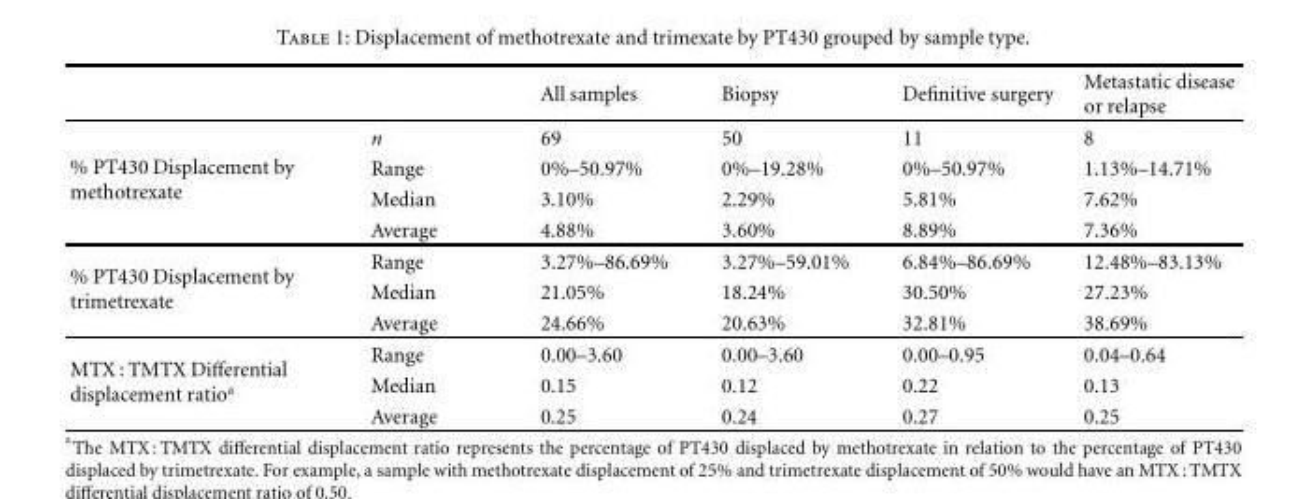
<table><thead><tr><td></td><td></td><td>All samples</td><td>Biopsy</td><td>Definitive surgery</td><td>Metastatic disease or relapse</td></tr></thead><tbody><tr><td rowspan="4">% PT430 Displacement by methotrexate</td><td>n</td><td>69</td><td>50</td><td>11</td><td>8</td></tr><tr><td>Range</td><td>0%–50.97%</td><td>0%–19.28%</td><td>0%–50.97%</td><td>1.13%–14.71%</td></tr><tr><td>Median</td><td>3.10%</td><td>2.29%</td><td>5.81%</td><td>7.62%</td></tr><tr><td>Average</td><td>4.88%</td><td>3.60%</td><td>8.89%</td><td>7.36%</td></tr><tr><td rowspan="3">% PT430 Displacement by trimetrexate</td><td>Range</td><td>3.27%–86.69%</td><td>3.27%–59.01%</td><td>6.84%–86.69%</td><td>12.48%–83.13%</td></tr><tr><td>Median</td><td>21.05%</td><td>18.24%</td><td>30.50%</td><td>27.23%</td></tr><tr><td>Average</td><td>24.66%</td><td>20.63%</td><td>32.81%</td><td>38.69%</td></tr><tr><td rowspan="3">MTX : TMTX Differential displacement ratio<sup>a</sup></td><td>Range</td><td>0.00–3.60</td><td>0.00–3.60</td><td>0.00–0.95</td><td>0.04–0.64</td></tr><tr><td>Median</td><td>0.15</td><td>0.12</td><td>0.22</td><td>0.13</td></tr><tr><td>Average</td><td>0.25</td><td>0.24</td><td>0.27</td><td>0.25</td></tr></tbody></table>